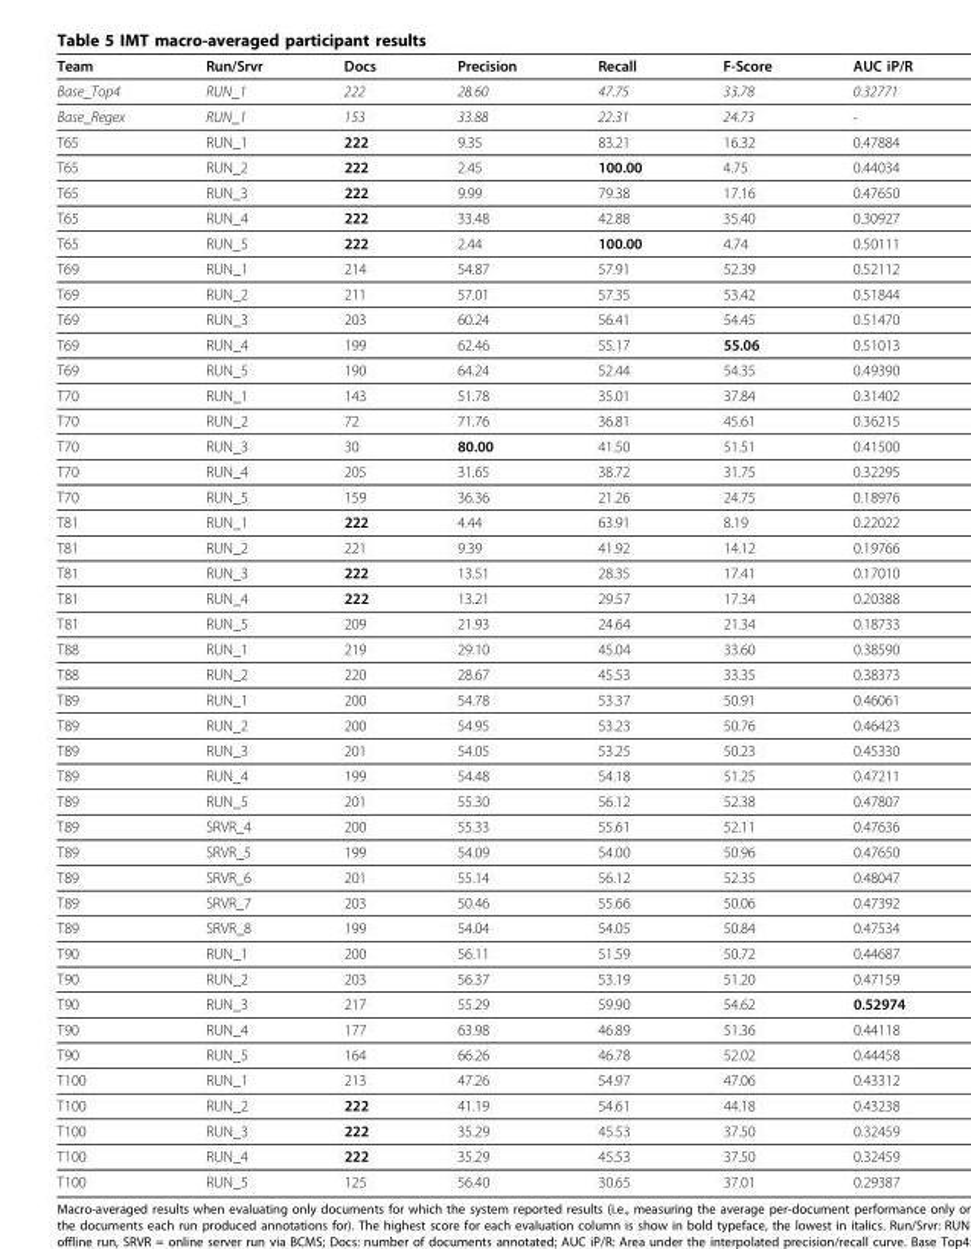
<table><thead><tr><td>Team</td><td>Run/Srvr</td><td>Docs</td><td>Precision</td><td>Recall</td><td>F-Score</td><td>AUC iP/R</td></tr></thead><tbody><tr><td>Base_Top4</td><td>RUN_1</td><td>222</td><td>28.60</td><td>47.75</td><td>33.78</td><td>0.32771</td></tr><tr><td>Base_Regex</td><td>RUN_1</td><td>153</td><td>33.88</td><td>22.31</td><td>24.73</td><td>-</td></tr><tr><td>T65</td><td>RUN_1</td><td>222</td><td>9.35</td><td>83.21</td><td>16.32</td><td>0.47884</td></tr><tr><td>T65</td><td>RUN_2</td><td>222</td><td>2.45</td><td>100.00</td><td>4.75</td><td>0.44034</td></tr><tr><td>T65</td><td>RUN_3</td><td>222</td><td>9.99</td><td>79.38</td><td>17.16</td><td>0.47650</td></tr><tr><td>T65</td><td>RUN_4</td><td>222</td><td>33.48</td><td>42.88</td><td>35.40</td><td>0.30927</td></tr><tr><td>T65</td><td>RUN_5</td><td>222</td><td>2.44</td><td>100.00</td><td>4.74</td><td>0.50111</td></tr><tr><td>T69</td><td>RUN_1</td><td>214</td><td>54.87</td><td>57.91</td><td>52.39</td><td>0.52112</td></tr><tr><td>T69</td><td>RUN_2</td><td>211</td><td>57.01</td><td>57.35</td><td>53.42</td><td>0.51844</td></tr><tr><td>T69</td><td>RUN_3</td><td>203</td><td>60.24</td><td>56.41</td><td>54.45</td><td>0.51470</td></tr><tr><td>T69</td><td>RUN_4</td><td>199</td><td>62.46</td><td>55.17</td><td>55.06</td><td>0.51013</td></tr><tr><td>T69</td><td>RUN_5</td><td>190</td><td>64.24</td><td>52.44</td><td>54.35</td><td>0.49390</td></tr><tr><td>T70</td><td>RUN_1</td><td>143</td><td>51.78</td><td>35.01</td><td>37.84</td><td>0.31402</td></tr><tr><td>T70</td><td>RUN_2</td><td>72</td><td>71.76</td><td>36.81</td><td>45.61</td><td>0.36215</td></tr><tr><td>T70</td><td>RUN_3</td><td>30</td><td>80.00</td><td>41.50</td><td>51.51</td><td>0.41500</td></tr><tr><td>T70</td><td>RUN_4</td><td>205</td><td>31.65</td><td>38.72</td><td>31.75</td><td>0.32295</td></tr><tr><td>T70</td><td>RUN_5</td><td>159</td><td>36.36</td><td>21.26</td><td>24.75</td><td>0.18976</td></tr><tr><td>T81</td><td>RUN_1</td><td>222</td><td>4.44</td><td>63.91</td><td>8.19</td><td>0.22022</td></tr><tr><td>T81</td><td>RUN_2</td><td>221</td><td>9.39</td><td>41.92</td><td>14.12</td><td>0.19766</td></tr><tr><td>T81</td><td>RUN_3</td><td>222</td><td>13.51</td><td>28.35</td><td>17.41</td><td>0.17010</td></tr><tr><td>T81</td><td>RUN_4</td><td>222</td><td>13.21</td><td>29.57</td><td>17.34</td><td>0.20388</td></tr><tr><td>T81</td><td>RUN_5</td><td>209</td><td>21.93</td><td>24.64</td><td>21.34</td><td>0.18733</td></tr><tr><td>T88</td><td>RUN_1</td><td>219</td><td>29.10</td><td>45.04</td><td>33.60</td><td>0.38590</td></tr><tr><td>T88</td><td>RUN_2</td><td>220</td><td>28.67</td><td>45.53</td><td>33.35</td><td>0.38373</td></tr><tr><td>T89</td><td>RUN_1</td><td>200</td><td>54.78</td><td>53.37</td><td>50.91</td><td>0.46061</td></tr><tr><td>T89</td><td>RUN_2</td><td>200</td><td>54.95</td><td>53.23</td><td>50.76</td><td>0.46423</td></tr><tr><td>T89</td><td>RUN_3</td><td>201</td><td>54.05</td><td>53.25</td><td>50.23</td><td>0.45330</td></tr><tr><td>T89</td><td>RUN_4</td><td>199</td><td>54.48</td><td>54.18</td><td>51.25</td><td>0.47211</td></tr><tr><td>T89</td><td>RUN_5</td><td>201</td><td>55.30</td><td>56.12</td><td>52.38</td><td>0.47807</td></tr><tr><td>T89</td><td>SRVR_4</td><td>200</td><td>55.33</td><td>55.61</td><td>52.11</td><td>0.47636</td></tr><tr><td>T89</td><td>SRVR_5</td><td>199</td><td>54.09</td><td>54.00</td><td>50.96</td><td>0.47650</td></tr><tr><td>T89</td><td>SRVR_6</td><td>201</td><td>55.14</td><td>56.12</td><td>52.35</td><td>0.48047</td></tr><tr><td>T89</td><td>SRVR_7</td><td>203</td><td>50.46</td><td>55.66</td><td>50.06</td><td>0.47392</td></tr><tr><td>T89</td><td>SRVR_8</td><td>199</td><td>54.04</td><td>54.05</td><td>50.84</td><td>0.47534</td></tr><tr><td>T90</td><td>RUN_1</td><td>200</td><td>56.11</td><td>51.59</td><td>50.72</td><td>0.44687</td></tr><tr><td>T90</td><td>RUN_2</td><td>203</td><td>56.37</td><td>53.19</td><td>51.20</td><td>0.47159</td></tr><tr><td>T90</td><td>RUN_3</td><td>217</td><td>55.29</td><td>59.90</td><td>54.62</td><td>0.52974</td></tr><tr><td>T90</td><td>RUN_4</td><td>177</td><td>63.98</td><td>46.89</td><td>51.36</td><td>0.44118</td></tr><tr><td>T90</td><td>RUN_5</td><td>164</td><td>66.26</td><td>46.78</td><td>52.02</td><td>0.44458</td></tr><tr><td>T100</td><td>RUN_1</td><td>213</td><td>47.26</td><td>54.97</td><td>47.06</td><td>0.43312</td></tr><tr><td>T100</td><td>RUN_2</td><td>222</td><td>41.19</td><td>54.61</td><td>44.18</td><td>0.43238</td></tr><tr><td>T100</td><td>RUN_3</td><td>222</td><td>35.29</td><td>45.53</td><td>37.50</td><td>0.32459</td></tr><tr><td>T100</td><td>RUN_4</td><td>222</td><td>35.29</td><td>45.53</td><td>37.50</td><td>0.32459</td></tr><tr><td>T100</td><td>RUN_5</td><td>125</td><td>56.40</td><td>30.65</td><td>37.01</td><td>0.29387</td></tr></tbody></table>